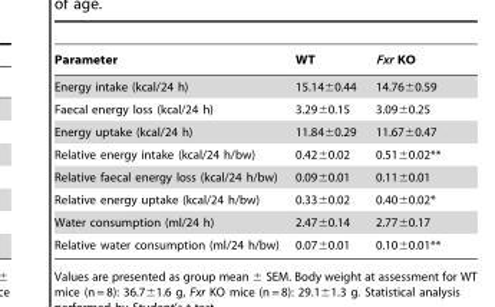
<table><thead><tr><td>Parameter</td><td>WT</td><td>Fxr KO</td></tr></thead><tbody><tr><td>Energy intake (kcal/24 h)</td><td>15.14±0.44</td><td>14.76±0.59</td></tr><tr><td>Faecal energy loss (kcal/24 h)</td><td>3.29±0.15</td><td>3.09±0.25</td></tr><tr><td>Energy uptake (kcal/24 h)</td><td>11.84±0.29</td><td>11.67±0.47</td></tr><tr><td>Relative energy intake (kcal/24 h/bw)</td><td>0.42±0.02</td><td>0.51±0.02**</td></tr><tr><td>Relative faecal energy loss (kcal/24 h/bw)</td><td>0.09±0.01</td><td>0.11±0.01</td></tr><tr><td>Relative energy uptake (kcal/24 h/bw)</td><td>0.33±0.02</td><td>0.40±0.02*</td></tr><tr><td>Water consumption (ml/24 h)</td><td>2.47±0.14</td><td>2.77±0.17</td></tr><tr><td>Relative water consumption (ml/24 h/bw)</td><td>0.07±0.01</td><td>0.10±0.01**</td></tr></tbody></table>